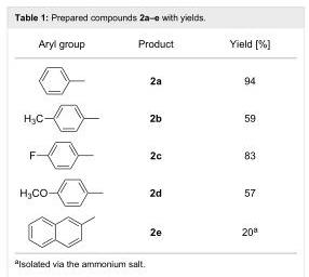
<table><tbody><tr><td rowspan="6">Aryl group</td><td>Product</td><td>Yield [%]</td></tr><tr><td>2a</td><td>94</td></tr><tr><td>2b</td><td>59</td></tr><tr><td>2c</td><td>83</td></tr><tr><td>2d</td><td>57</td></tr><tr><td>2e</td><td>20<sup>a</sup></td></tr></tbody></table>